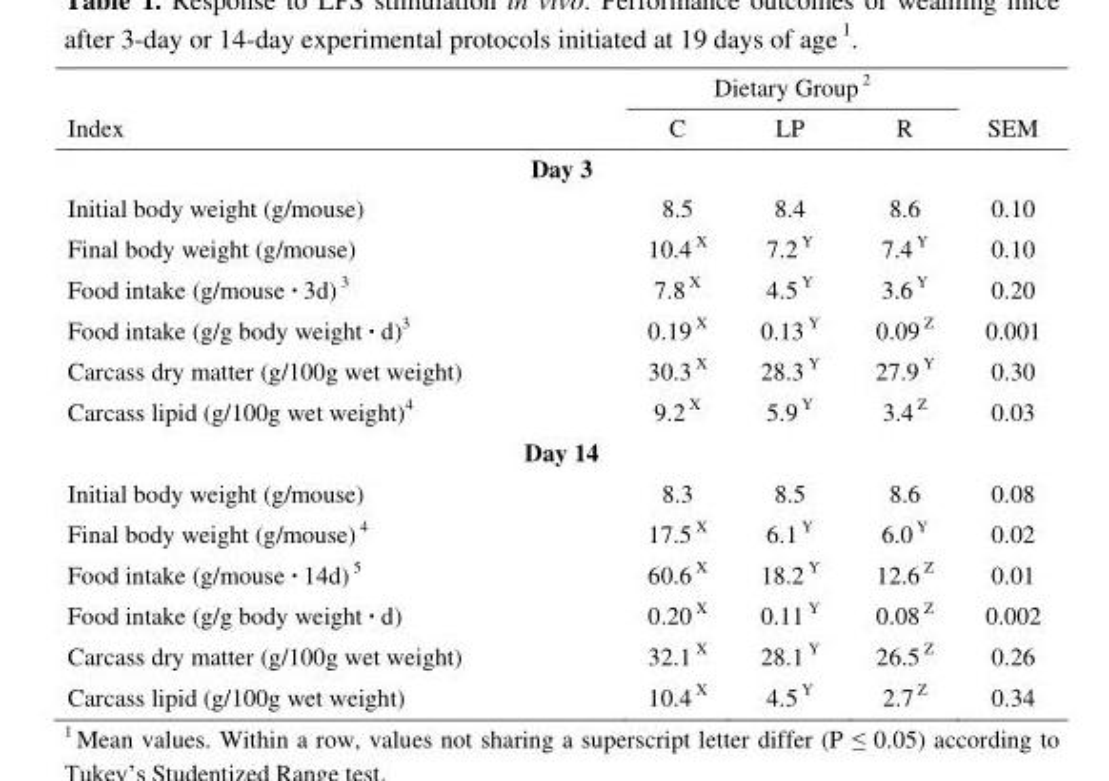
<table><thead><tr><td rowspan="2">Index</td><td colspan="3">Dietary Group 2</td><td rowspan="2">SEM</td></tr><tr><td>C</td><td>LP</td><td>R</td></tr></thead><tbody><tr><td colspan="5">Day 3</td></tr><tr><td>Initial body weight (g/mouse)</td><td>8.5</td><td>8.4</td><td>8.6</td><td>0.10</td></tr><tr><td>Final body weight (g/mouse)</td><td>10.4 <sup>X</sup></td><td>7.2 <sup>Y</sup></td><td>7.4 <sup>Y</sup></td><td>0.10</td></tr><tr><td>Food intake (g/mouse · 3d) 3</td><td>7.8 <sup>X</sup></td><td>4.5 <sup>Y</sup></td><td>3.6 <sup>Y</sup></td><td>0.20</td></tr><tr><td>Food intake (g/g body weight · d)<sup>3</sup></td><td>0.19 <sup>X</sup></td><td>0.13 <sup>Y</sup></td><td>0.09 <sup>Z</sup></td><td>0.001</td></tr><tr><td>Carcass dry matter (g/100g wet weight)</td><td>30.3 <sup>X</sup></td><td>28.3 <sup>Y</sup></td><td>27.9 <sup>Y</sup></td><td>0.30</td></tr><tr><td>Carcass lipid (g/100g wet weight)<sup>4</sup></td><td>9.2 <sup>X</sup></td><td>5.9 <sup>Y</sup></td><td>3.4 <sup>Z</sup></td><td>0.03</td></tr><tr><td colspan="5">Day 14</td></tr><tr><td>Initial body weight (g/mouse)</td><td>8.3</td><td>8.5</td><td>8.6</td><td>0.08</td></tr><tr><td>Final body weight (g/mouse) 4</td><td>17.5 <sup>X</sup></td><td>6.1 <sup>Y</sup></td><td>6.0 <sup>Y</sup></td><td>0.02</td></tr><tr><td>Food intake (g/mouse · 14d) 5</td><td>60.6 <sup>X</sup></td><td>18.2 <sup>Y</sup></td><td>12.6 <sup>Z</sup></td><td>0.01</td></tr><tr><td>Food intake (g/g body weight · d)</td><td>0.20 <sup>X</sup></td><td>0.11 <sup>Y</sup></td><td>0.08 <sup>Z</sup></td><td>0.002</td></tr><tr><td>Carcass dry matter (g/100g wet weight)</td><td>32.1 <sup>X</sup></td><td>28.1 <sup>Y</sup></td><td>26.5 <sup>Z</sup></td><td>0.26</td></tr><tr><td>Carcass lipid (g/100g wet weight)</td><td>10.4 <sup>X</sup></td><td>4.5 <sup>Y</sup></td><td>2.7 <sup>Z</sup></td><td>0.34</td></tr></tbody></table>